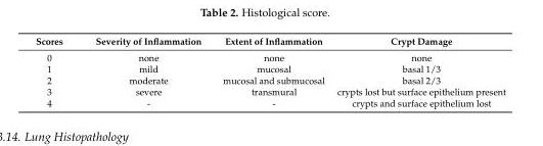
<table><thead><tr><td>Scores</td><td>Severity of Inflammation</td><td>Extent of Inflammation</td><td>Crypt Damage</td></tr></thead><tbody><tr><td>0</td><td>none</td><td>none</td><td>none</td></tr><tr><td>1</td><td>mild</td><td>mucosal</td><td>basal 1/3</td></tr><tr><td>2</td><td>moderate</td><td>mucosal and submucosal</td><td>basal 2/3</td></tr><tr><td>3</td><td>severe</td><td>transmural</td><td>crypts lost but surface epithelium present</td></tr><tr><td>4</td><td>-</td><td>-</td><td>crypts and surface epithelium lost</td></tr></tbody></table>